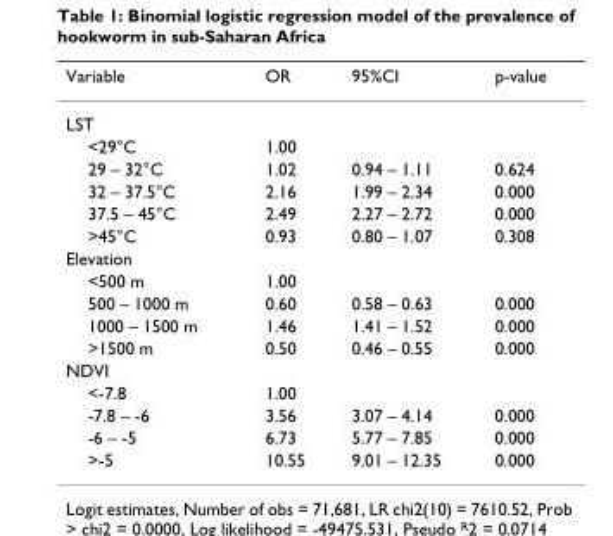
<table><thead><tr><td>Variable</td><td>OR</td><td>95%CI</td><td>p-value</td></tr></thead><tbody><tr><td colspan="4">LST</td></tr><tr><td>&lt;29°C</td><td>1.00</td><td></td><td></td></tr><tr><td>29 – 32°C</td><td>1.02</td><td>0.94 – 1.11</td><td>0.624</td></tr><tr><td>32 – 37.5°C</td><td>2.16</td><td>1.99 – 2.34</td><td>0.000</td></tr><tr><td>37.5 – 45°C</td><td>2.49</td><td>2.27 – 2.72</td><td>0.000</td></tr><tr><td>&gt;45°C</td><td>0.93</td><td>0.80 – 1.07</td><td>0.308</td></tr><tr><td colspan="4">Elevation</td></tr><tr><td>&lt;500 m</td><td>1.00</td><td></td><td></td></tr><tr><td>500 – 1000 m</td><td>0.60</td><td>0.58 – 0.63</td><td>0.000</td></tr><tr><td>1000 – 1500 m</td><td>1.46</td><td>1.41 – 1.52</td><td>0.000</td></tr><tr><td>&gt;1500 m</td><td>0.50</td><td>0.46 – 0.55</td><td>0.000</td></tr><tr><td colspan="4">NDVI</td></tr><tr><td>&lt;-7.8</td><td>1.00</td><td></td><td></td></tr><tr><td>-7.8 – -6</td><td>3.56</td><td>3.07 – 4.14</td><td>0.000</td></tr><tr><td>-6 – -5</td><td>6.73</td><td>5.77 – 7.85</td><td>0.000</td></tr><tr><td>&gt;-5</td><td>10.55</td><td>9.01 – 12.35</td><td>0.000</td></tr></tbody></table>